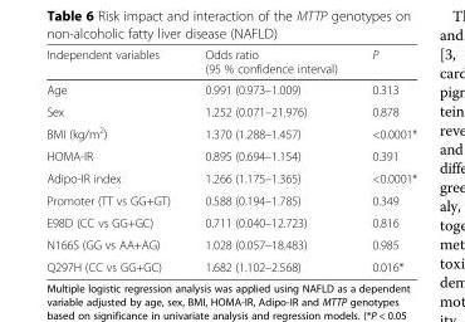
<table><thead><tr><td>Independent variables</td><td>Odds ratio (95 % confidence interval)</td><td>P</td></tr></thead><tbody><tr><td>Age</td><td>0.991 (0.973–1.009)</td><td>0.313</td></tr><tr><td>Sex</td><td>1.252 (0.071–21.976)</td><td>0.878</td></tr><tr><td>BMI (kg/m<sup>2</sup>)</td><td>1.370 (1.288–1.457)</td><td>&lt;0.0001*</td></tr><tr><td>HOMA-IR</td><td>0.895 (0.694–1.154)</td><td>0.391</td></tr><tr><td>Adipo-IR index</td><td>1.266 (1.175–1.365)</td><td>&lt;0.0001*</td></tr><tr><td>Promoter (TT vs GG+GT)</td><td>0.588 (0.194–1.785)</td><td>0.349</td></tr><tr><td>E98D (CC vs GG+GC)</td><td>0.711 (0.040–12.723)</td><td>0.816</td></tr><tr><td>N166S (GG vs AA+AG)</td><td>1.028 (0.057–18.483)</td><td>0.985</td></tr><tr><td>Q297H (CC vs GG+GC)</td><td>1.682 (1.102–2.568)</td><td>0.016*</td></tr></tbody></table>